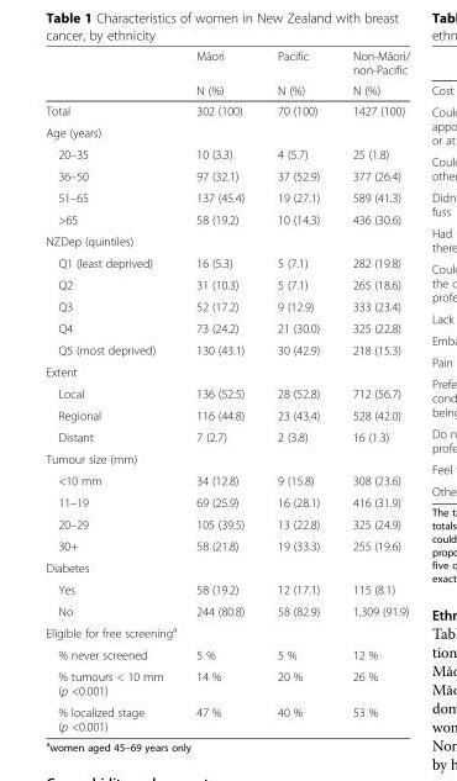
<table><thead><tr><td rowspan="2"></td><td rowspan="2">Māori N (%)</td><td rowspan="2">Pacific N (%)</td><td rowspan="2">Non-Māori/ non-Pacific N (%)</td></tr><tr></tr></thead><tbody><tr><td>Total</td><td>302 (100)</td><td>70 (100)</td><td>1427 (100)</td></tr><tr><td colspan="4">Age (years)</td></tr><tr><td>20–35</td><td>10 (3.3)</td><td>4 (5.7)</td><td>25 (1.8)</td></tr><tr><td>36–50</td><td>97 (32.1)</td><td>37 (52.9)</td><td>377 (26.4)</td></tr><tr><td>51–65</td><td>137 (45.4)</td><td>19 (27.1)</td><td>589 (41.3)</td></tr><tr><td>&gt;65</td><td>58 (19.2)</td><td>10 (14.3)</td><td>436 (30.6)</td></tr><tr><td colspan="4">NZDep (quintiles)</td></tr><tr><td>Q1 (least deprived)</td><td>16 (5.3)</td><td>5 (7.1)</td><td>282 (19.8)</td></tr><tr><td>Q2</td><td>31 (10.3)</td><td>5 (7.1)</td><td>265 (18.6)</td></tr><tr><td>Q3</td><td>52 (17.2)</td><td>9 (12.9)</td><td>333 (23.4)</td></tr><tr><td>Q4</td><td>73 (24.2)</td><td>21 (30.0)</td><td>325 (22.8)</td></tr><tr><td>Q5 (most deprived)</td><td>130 (43.1)</td><td>30 (42.9)</td><td>218 (15.3)</td></tr><tr><td colspan="4">Extent</td></tr><tr><td>Local</td><td>136 (52.5)</td><td>28 (52.8)</td><td>712 (56.7)</td></tr><tr><td>Regional</td><td>116 (44.8)</td><td>23 (43.4)</td><td>528 (42.0)</td></tr><tr><td>Distant</td><td>7 (2.7)</td><td>2 (3.8)</td><td>16 (1.3)</td></tr><tr><td colspan="4">Tumour size (mm)</td></tr><tr><td>&lt;10 mm</td><td>34 (12.8)</td><td>9 (15.8)</td><td>308 (23.6)</td></tr><tr><td>11–19</td><td>69 (25.9)</td><td>16 (28.1)</td><td>416 (31.9)</td></tr><tr><td>20–29</td><td>105 (39.5)</td><td>13 (22.8)</td><td>325 (24.9)</td></tr><tr><td>30+</td><td>58 (21.8)</td><td>19 (33.3)</td><td>255 (19.6)</td></tr><tr><td colspan="4">Diabetes</td></tr><tr><td>Yes</td><td>58 (19.2)</td><td>12 (17.1)</td><td>115 (8.1)</td></tr><tr><td>No</td><td>244 (80.8)</td><td>58 (82.9)</td><td>1,309 (91.9)</td></tr><tr><td colspan="4">Eligible for free screening<sup>a</sup></td></tr><tr><td>% never screened</td><td>5 %</td><td>5 %</td><td>12 %</td></tr><tr><td>% tumours &lt; 10 mm (p &lt;0.001)</td><td>14 %</td><td>20 %</td><td>26 %</td></tr><tr><td>% localized stage (p &lt;0.001)</td><td>47 %</td><td>40 %</td><td>53 %</td></tr></tbody></table>